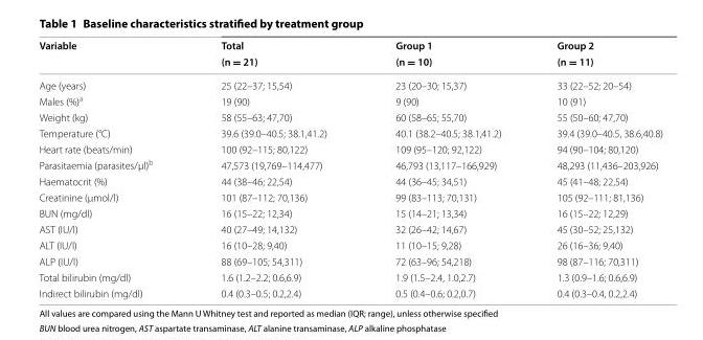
<table><thead><tr><td rowspan="2">Variable</td><td rowspan="2">Total (n = 21)</td><td rowspan="2">Group 1 (n = 10)</td><td rowspan="2">Group 2 (n = 11)</td></tr><tr></tr></thead><tbody><tr><td>Age (years)</td><td>25 (22–37; 15,54)</td><td>23 (20–30; 15,37)</td><td>33 (22–52; 20–54)</td></tr><tr><td>Males (%)<sup>a</sup></td><td>19 (90)</td><td>9 (90)</td><td>10 (91)</td></tr><tr><td>Weight (kg)</td><td>58 (55–63; 47,70)</td><td>60 (58–65; 55,70)</td><td>55 (50–60; 47,70)</td></tr><tr><td>Temperature (°C)</td><td>39.6 (39.0–40.5; 38.1,41.2)</td><td>40.1 (38.2–40.5; 38.1,41.2)</td><td>39.4 (39.0–40.5, 38.6,40.8)</td></tr><tr><td>Heart rate (beats/min)</td><td>100 (92–115; 80,122)</td><td>109 (95–120; 92,122)</td><td>94 (90–104; 80,120)</td></tr><tr><td>Parasitaemia (parasites/μl)<sup>b</sup></td><td>47,573 (19,769–114,477)</td><td>46,793 (13,117–166,929)</td><td>48,293 (11,436–203,926)</td></tr><tr><td>Haematocrit (%)</td><td>44 (38–46; 22,54)</td><td>44 (36–45; 34,51)</td><td>45 (41–48; 22,54)</td></tr><tr><td>Creatinine (μmol/l)</td><td>101 (87–112; 70,136)</td><td>99 (83–113; 70,131)</td><td>105 (92–111; 81,136)</td></tr><tr><td>BUN (mg/dl)</td><td>16 (15–22; 12,34)</td><td>15 (14–21; 13,34)</td><td>16 (15–22; 12,29)</td></tr><tr><td>AST (IU/l)</td><td>40 (27–49; 14,132)</td><td>32 (26–42; 14,67)</td><td>45 (30–52; 25,132)</td></tr><tr><td>ALT (IU/l)</td><td>16 (10–28; 9,40)</td><td>11 (10–15; 9,28)</td><td>26 (16–36; 9,40)</td></tr><tr><td>ALP (IU/l)</td><td>88 (69–105; 54,311)</td><td>72 (63–96; 54,218)</td><td>98 (87–116; 70,311)</td></tr><tr><td>Total bilirubin (mg/dl)</td><td>1.6 (1.2–2.2; 0.6,6.9)</td><td>1.9 (1.5–2.4, 1.0,2.7)</td><td>1.3 (0.9–1.6; 0.6,6.9)</td></tr><tr><td>Indirect bilirubin (mg/dl)</td><td>0.4 (0.3–0.5; 0.2,2.4)</td><td>0.5 (0.4–0.6; 0.2,0.7)</td><td>0.4 (0.3–0.4, 0.2,2.4)</td></tr></tbody></table>